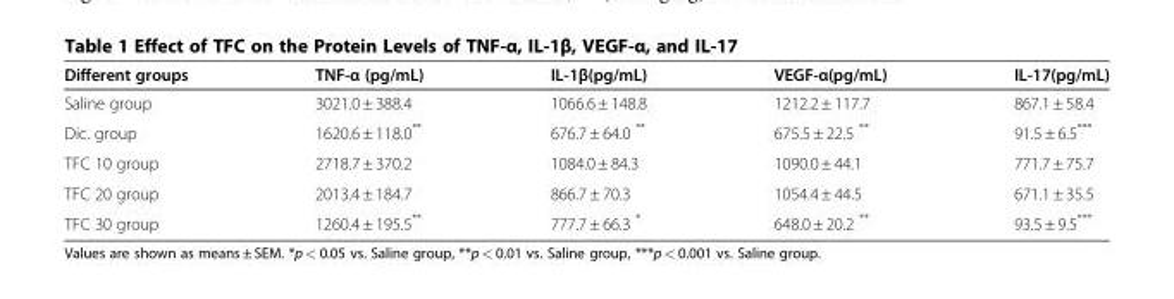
<table><thead><tr><td>Different groups</td><td>TNF-α (pg/mL)</td><td>IL-1β(pg/mL)</td><td>VEGF-α(pg/mL)</td><td>IL-17(pg/mL)</td></tr></thead><tbody><tr><td>Saline group</td><td>3021.0 ± 388.4</td><td>1066.6 ± 148.8</td><td>1212.2 ± 117.7</td><td>867.1 ± 58.4</td></tr><tr><td>Dic. group</td><td>1620.6 ± 118.0**</td><td>676.7 ± 64.0 **</td><td>675.5 ± 22.5 **</td><td>91.5 ± 6.5***</td></tr><tr><td>TFC 10 group</td><td>2718.7 ± 370.2</td><td>1084.0 ± 84.3</td><td>1090.0 ± 44.1</td><td>771.7 ± 75.7</td></tr><tr><td>TFC 20 group</td><td>2013.4 ± 184.7</td><td>866.7 ± 70.3</td><td>1054.4 ± 44.5</td><td>671.1 ± 35.5</td></tr><tr><td>TFC 30 group</td><td>1260.4 ± 195.5**</td><td>777.7 ± 66.3 *</td><td>648.0 ± 20.2 **</td><td>93.5 ± 9.5***</td></tr></tbody></table>